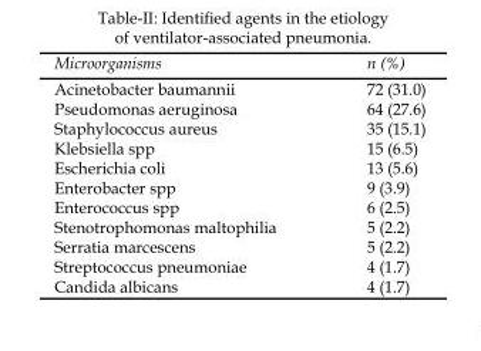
<table><thead><tr><td>Microorganisms</td><td>n (%)</td></tr></thead><tbody><tr><td>Acinetobacter baumannii</td><td>72 (31.0)</td></tr><tr><td>Pseudomonas aeruginosa</td><td>64 (27.6)</td></tr><tr><td>Staphylococcus aureus</td><td>35 (15.1)</td></tr><tr><td>Klebsiella spp</td><td>15 (6.5)</td></tr><tr><td>Escherichia coli</td><td>13 (5.6)</td></tr><tr><td>Enterobacter spp</td><td>9 (3.9)</td></tr><tr><td>Enterococcus spp</td><td>6 (2.5)</td></tr><tr><td>Stenotrophomonas maltophilia</td><td>5 (2.2)</td></tr><tr><td>Serratia marcescens</td><td>5 (2.2)</td></tr><tr><td>Streptococcus pneumoniae</td><td>4 (1.7)</td></tr><tr><td>Candida albicans</td><td>4 (1.7)</td></tr></tbody></table>